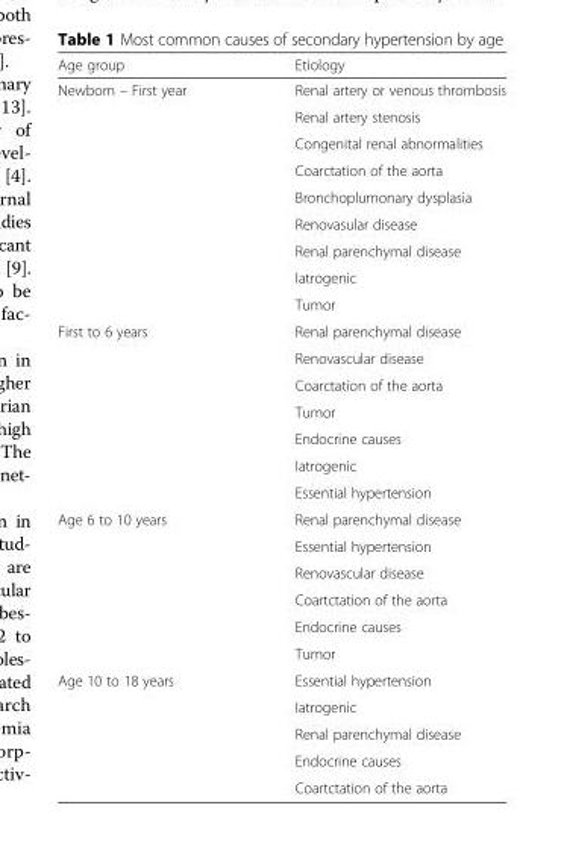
<table><thead><tr><td>Age group</td><td>Etiology</td></tr></thead><tbody><tr><td rowspan="9">Newborn – First year</td><td>Renal artery or venous thrombosis</td></tr><tr><td>Renal artery stenosis</td></tr><tr><td>Congenital renal abnormalities</td></tr><tr><td>Coarctation of the aorta</td></tr><tr><td>Bronchoplumonary dysplasia</td></tr><tr><td>Renovasular disease</td></tr><tr><td>Renal parenchymal disease</td></tr><tr><td>Iatrogenic</td></tr><tr><td>Tumor</td></tr><tr><td rowspan="7">First to 6 years</td><td>Renal parenchymal disease</td></tr><tr><td>Renovascular disease</td></tr><tr><td>Coarctation of the aorta</td></tr><tr><td>Tumor</td></tr><tr><td>Endocrine causes</td></tr><tr><td>Iatrogenic</td></tr><tr><td>Essential hypertension</td></tr><tr><td rowspan="6">Age 6 to 10 years</td><td>Renal parenchymal disease</td></tr><tr><td>Essential hypertension</td></tr><tr><td>Renovascular disease</td></tr><tr><td>Coartctation of the aorta</td></tr><tr><td>Endocrine causes</td></tr><tr><td>Tumor</td></tr><tr><td rowspan="5">Age 10 to 18 years</td><td>Essential hypertension</td></tr><tr><td>Iatrogenic</td></tr><tr><td>Renal parenchymal disease</td></tr><tr><td>Endocrine causes</td></tr><tr><td>Coartctation of the aorta</td></tr></tbody></table>